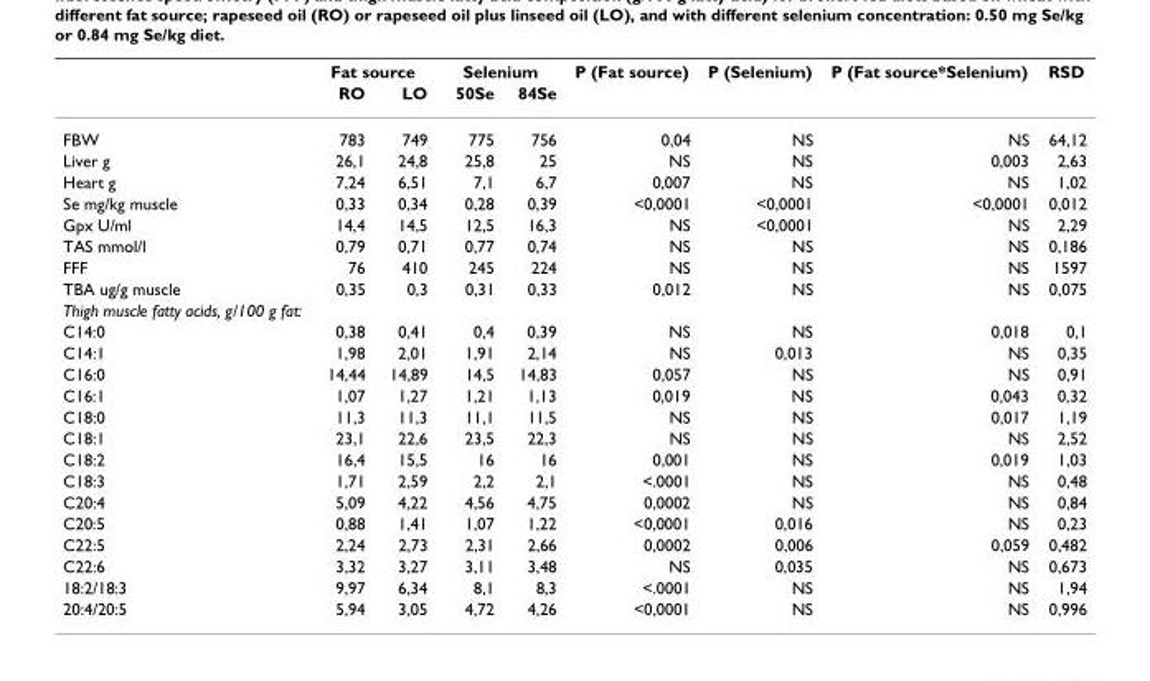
<table><thead><tr><td rowspan="2"></td><td colspan="2">Fat source</td><td colspan="2">Selenium</td><td rowspan="2">P (Fat source)</td><td rowspan="2">P (Selenium)</td><td rowspan="2">P (Fat source*Selenium)</td><td rowspan="2">RSD</td></tr><tr><td>RO</td><td>LO</td><td>50Se</td><td>84Se</td></tr></thead><tbody><tr><td>FBW</td><td>783</td><td>749</td><td>775</td><td>756</td><td>0,04</td><td>NS</td><td>NS</td><td>64,12</td></tr><tr><td>Liver g</td><td>26,1</td><td>24,8</td><td>25,8</td><td>25</td><td>NS</td><td>NS</td><td>0,003</td><td>2,63</td></tr><tr><td>Heart g</td><td>7,24</td><td>6,51</td><td>7,1</td><td>6,7</td><td>0,007</td><td>NS</td><td>NS</td><td>1,02</td></tr><tr><td>Se mg/kg muscle</td><td>0,33</td><td>0,34</td><td>0,28</td><td>0,39</td><td>&lt;0,0001</td><td>&lt;0,0001</td><td>&lt;0,0001</td><td>0,012</td></tr><tr><td>Gpx U/ml</td><td>14,4</td><td>14,5</td><td>12,5</td><td>16,3</td><td>NS</td><td>&lt;0,0001</td><td>NS</td><td>2,29</td></tr><tr><td>TAS mmol/l</td><td>0,79</td><td>0,71</td><td>0,77</td><td>0,74</td><td>NS</td><td>NS</td><td>NS</td><td>0,186</td></tr><tr><td>FFF</td><td>76</td><td>410</td><td>245</td><td>224</td><td>NS</td><td>NS</td><td>NS</td><td>1597</td></tr><tr><td>TBA ug/g muscle</td><td>0,35</td><td>0,3</td><td>0,31</td><td>0,33</td><td>0,012</td><td>NS</td><td>NS</td><td>0,075</td></tr><tr><td colspan="9">Thigh muscle fatty acids, g/100 g fat:</td></tr><tr><td>C14:0</td><td>0,38</td><td>0,41</td><td>0,4</td><td>0,39</td><td>NS</td><td>NS</td><td>0,018</td><td>0,1</td></tr><tr><td>C14:1</td><td>1,98</td><td>2,01</td><td>1,91</td><td>2,14</td><td>NS</td><td>0,013</td><td>NS</td><td>0,35</td></tr><tr><td>C16:0</td><td>14,44</td><td>14,89</td><td>14,5</td><td>14,83</td><td>0,057</td><td>NS</td><td>NS</td><td>0,91</td></tr><tr><td>C16:1</td><td>1,07</td><td>1,27</td><td>1,21</td><td>1,13</td><td>0,019</td><td>NS</td><td>0,043</td><td>0,32</td></tr><tr><td>C18:0</td><td>11,3</td><td>11,3</td><td>11,1</td><td>11,5</td><td>NS</td><td>NS</td><td>0,017</td><td>1,19</td></tr><tr><td>C18:1</td><td>23,1</td><td>22,6</td><td>23,5</td><td>22,3</td><td>NS</td><td>NS</td><td>NS</td><td>2,52</td></tr><tr><td>C18:2</td><td>16,4</td><td>15,5</td><td>16</td><td>16</td><td>0,001</td><td>NS</td><td>0,019</td><td>1,03</td></tr><tr><td>C18:3</td><td>1,71</td><td>2,59</td><td>2,2</td><td>2,1</td><td>&lt;.0001</td><td>NS</td><td>NS</td><td>0,48</td></tr><tr><td>C20:4</td><td>5,09</td><td>4,22</td><td>4,56</td><td>4,75</td><td>0,0002</td><td>NS</td><td>NS</td><td>0,84</td></tr><tr><td>C20:5</td><td>0,88</td><td>1,41</td><td>1,07</td><td>1,22</td><td>&lt;0,0001</td><td>0,016</td><td>NS</td><td>0,23</td></tr><tr><td>C22:5</td><td>2,24</td><td>2,73</td><td>2,31</td><td>2,66</td><td>0,0002</td><td>0,006</td><td>0,059</td><td>0,482</td></tr><tr><td>C22:6</td><td>3,32</td><td>3,27</td><td>3,11</td><td>3,48</td><td>NS</td><td>0,035</td><td>NS</td><td>0,673</td></tr><tr><td>18:2/18:3</td><td>9,97</td><td>6,34</td><td>8,1</td><td>8,3</td><td>&lt;.0001</td><td>NS</td><td>NS</td><td>1,94</td></tr><tr><td>20:4/20:5</td><td>5,94</td><td>3,05</td><td>4,72</td><td>4,26</td><td>&lt;0,0001</td><td>NS</td><td>NS</td><td>0,996</td></tr></tbody></table>